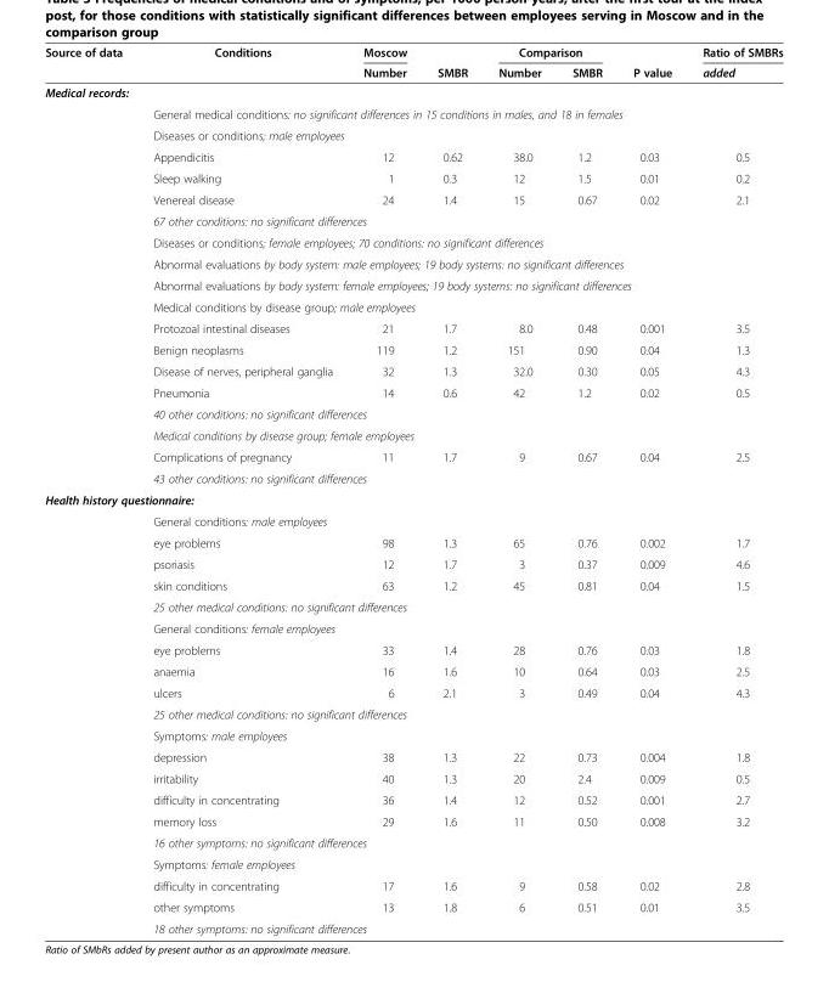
<table><thead><tr><td rowspan="2">Source of data</td><td rowspan="2">Conditions</td><td rowspan="2">Moscow Number</td><td rowspan="2">SMBR</td><td colspan="2">Comparison</td><td rowspan="2">P value</td><td rowspan="2">Ratio of SMBRs added</td></tr><tr><td>Number</td><td>SMBR</td></tr></thead><tbody><tr><td colspan="8">Medical records:</td></tr><tr><td></td><td colspan="7">General medical conditions: no significant differences in 15 conditions in males, and 18 in females</td></tr><tr><td></td><td colspan="7">Diseases or conditions; male employees</td></tr><tr><td></td><td>Appendicitis</td><td>12</td><td>0.62</td><td>38.0</td><td>1.2</td><td>0.03</td><td>0.5</td></tr><tr><td></td><td>Sleep walking</td><td>1</td><td>0.3</td><td>12</td><td>1.5</td><td>0.01</td><td>0.2</td></tr><tr><td></td><td>Venereal disease</td><td>24</td><td>1.4</td><td>15</td><td>0.67</td><td>0.02</td><td>2.1</td></tr><tr><td></td><td colspan="3">67 other conditions: no significant differences</td><td></td><td></td><td></td><td></td></tr><tr><td></td><td colspan="7">Diseases or conditions; female employees; 70 conditions: no significant differences</td></tr><tr><td></td><td colspan="7">Abnormal evaluations by body system: male employees; 19 body systems: no significant differences</td></tr><tr><td></td><td colspan="7">Abnormal evaluations by body system: female employees; 19 body systems: no significant differences</td></tr><tr><td></td><td colspan="7">Medical conditions by disease group; male employees</td></tr><tr><td></td><td>Protozoal intestinal diseases</td><td>21</td><td>1.7</td><td>8.0</td><td>0.48</td><td>0.001</td><td>3.5</td></tr><tr><td></td><td>Benign neoplasms</td><td>119</td><td>1.2</td><td>151</td><td>0.90</td><td>0.04</td><td>1.3</td></tr><tr><td></td><td>Disease of nerves, peripheral ganglia</td><td>32</td><td>1.3</td><td>32.0</td><td>0.30</td><td>0.05</td><td>4.3</td></tr><tr><td></td><td>Pneumonia</td><td>14</td><td>0.6</td><td>42</td><td>1.2</td><td>0.02</td><td>0.5</td></tr><tr><td></td><td colspan="7">40 other conditions: no significant differences</td></tr><tr><td></td><td colspan="7">Medical conditions by disease group; female employees</td></tr><tr><td></td><td>Complications of pregnancy</td><td>11</td><td>1.7</td><td>9</td><td>0.67</td><td>0.04</td><td>2.5</td></tr><tr><td></td><td colspan="7">43 other conditions: no significant differences</td></tr><tr><td colspan="8">Health history questionnaire:</td></tr><tr><td></td><td colspan="7">General conditions: male employees</td></tr><tr><td></td><td>eye problems</td><td>98</td><td>1.3</td><td>65</td><td>0.76</td><td>0.002</td><td>1.7</td></tr><tr><td></td><td>psoriasis</td><td>12</td><td>1.7</td><td>3</td><td>0.37</td><td>0.009</td><td>4.6</td></tr><tr><td></td><td>skin conditions</td><td>63</td><td>1.2</td><td>45</td><td>0.81</td><td>0.04</td><td>1.5</td></tr><tr><td></td><td colspan="7">25 other medical conditions: no significant differences</td></tr><tr><td></td><td colspan="7">General conditions: female employees</td></tr><tr><td></td><td>eye problems</td><td>33</td><td>1.4</td><td>28</td><td>0.76</td><td>0.03</td><td>1.8</td></tr><tr><td></td><td>anaemia</td><td>16</td><td>1.6</td><td>10</td><td>0.64</td><td>0.03</td><td>2.5</td></tr><tr><td></td><td>ulcers</td><td>6</td><td>2.1</td><td>3</td><td>0.49</td><td>0.04</td><td>4.3</td></tr><tr><td></td><td colspan="7">25 other medical conditions: no significant differences</td></tr><tr><td></td><td colspan="7">Symptoms: male employees</td></tr><tr><td></td><td>depression</td><td>38</td><td>1.3</td><td>22</td><td>0.73</td><td>0.004</td><td>1.8</td></tr><tr><td></td><td>irritability</td><td>40</td><td>1.3</td><td>20</td><td>2.4</td><td>0.009</td><td>0.5</td></tr><tr><td></td><td>difficulty in concentrating</td><td>36</td><td>1.4</td><td>12</td><td>0.52</td><td>0.001</td><td>2.7</td></tr><tr><td></td><td>memory loss</td><td>29</td><td>1.6</td><td>11</td><td>0.50</td><td>0.008</td><td>3.2</td></tr><tr><td></td><td colspan="7">16 other symptoms: no significant differences</td></tr><tr><td></td><td colspan="7">Symptoms: female employees</td></tr><tr><td></td><td>difficulty in concentrating</td><td>17</td><td>1.6</td><td>9</td><td>0.58</td><td>0.02</td><td>2.8</td></tr><tr><td></td><td>other symptoms</td><td>13</td><td>1.8</td><td>6</td><td>0.51</td><td>0.01</td><td>3.5</td></tr><tr><td></td><td colspan="7">18 other symptoms: no significant differences</td></tr></tbody></table>